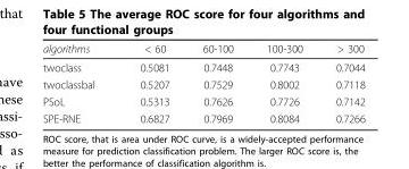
<table><thead><tr><td>algorithms</td><td>&lt; 60</td><td>60-100</td><td>100-300</td><td>&gt; 300</td></tr></thead><tbody><tr><td>twoclass</td><td>0.5081</td><td>0.7448</td><td>0.7743</td><td>0.7044</td></tr><tr><td>twoclassbal</td><td>0.5207</td><td>0.7529</td><td>0.8002</td><td>0.7118</td></tr><tr><td>PSoL</td><td>0.5313</td><td>0.7626</td><td>0.7726</td><td>0.7142</td></tr><tr><td>SPE-RNE</td><td>0.6827</td><td>0.7969</td><td>0.8084</td><td>0.7266</td></tr></tbody></table>